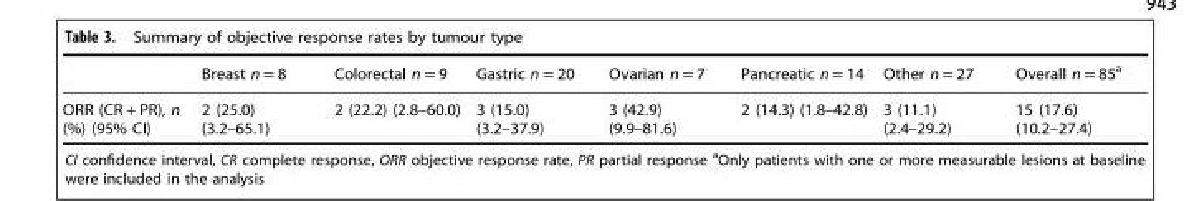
<table><thead><tr><td></td><td>Breast n = 8</td><td>Colorectal n = 9</td><td>Gastric n = 20</td><td>Ovarian n = 7</td><td>Pancreatic n = 14</td><td>Other n = 27</td><td>Overall n = 85<sup>a</sup></td></tr></thead><tbody><tr><td>ORR (CR + PR), n (%) (95% CI)</td><td>2 (25.0) (3.2–65.1)</td><td>2 (22.2) (2.8–60.0)</td><td>3 (15.0) (3.2–37.9)</td><td>3 (42.9) (9.9–81.6)</td><td>2 (14.3) (1.8–42.8)</td><td>3 (11.1) (2.4–29.2)</td><td>15 (17.6) (10.2–27.4)</td></tr></tbody></table>